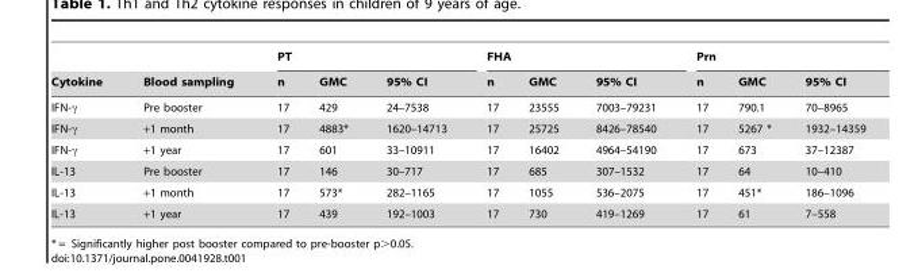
<table><thead><tr><td rowspan="2">Cytokine</td><td rowspan="2">Blood sampling</td><td colspan="3">PT</td><td colspan="3">FHA</td><td colspan="3">Prn</td></tr><tr><td>n</td><td>GMC</td><td>95% CI</td><td>n</td><td>GMC</td><td>95% CI</td><td>n</td><td>GMC</td><td>95% CI</td></tr></thead><tbody><tr><td>IFN-γ</td><td>Pre booster</td><td>17</td><td>429</td><td>24–7538</td><td>17</td><td>23555</td><td>7003–79231</td><td>17</td><td>790.1</td><td>70–8965</td></tr><tr><td>IFN-γ</td><td>+1 month</td><td>17</td><td>4883*</td><td>1620–14713</td><td>17</td><td>25725</td><td>8426–78540</td><td>17</td><td>5267 *</td><td>1932–14359</td></tr><tr><td>IFN-γ</td><td>+1 year</td><td>17</td><td>601</td><td>33–10911</td><td>17</td><td>16402</td><td>4964–54190</td><td>17</td><td>673</td><td>37–12387</td></tr><tr><td>IL-13</td><td>Pre booster</td><td>17</td><td>146</td><td>30–717</td><td>17</td><td>685</td><td>307–1532</td><td>17</td><td>64</td><td>10–410</td></tr><tr><td>IL-13</td><td>+1 month</td><td>17</td><td>573*</td><td>282–1165</td><td>17</td><td>1055</td><td>536–2075</td><td>17</td><td>451*</td><td>186–1096</td></tr><tr><td>IL-13</td><td>+1 year</td><td>17</td><td>439</td><td>192–1003</td><td>17</td><td>730</td><td>419–1269</td><td>17</td><td>61</td><td>7–558</td></tr></tbody></table>